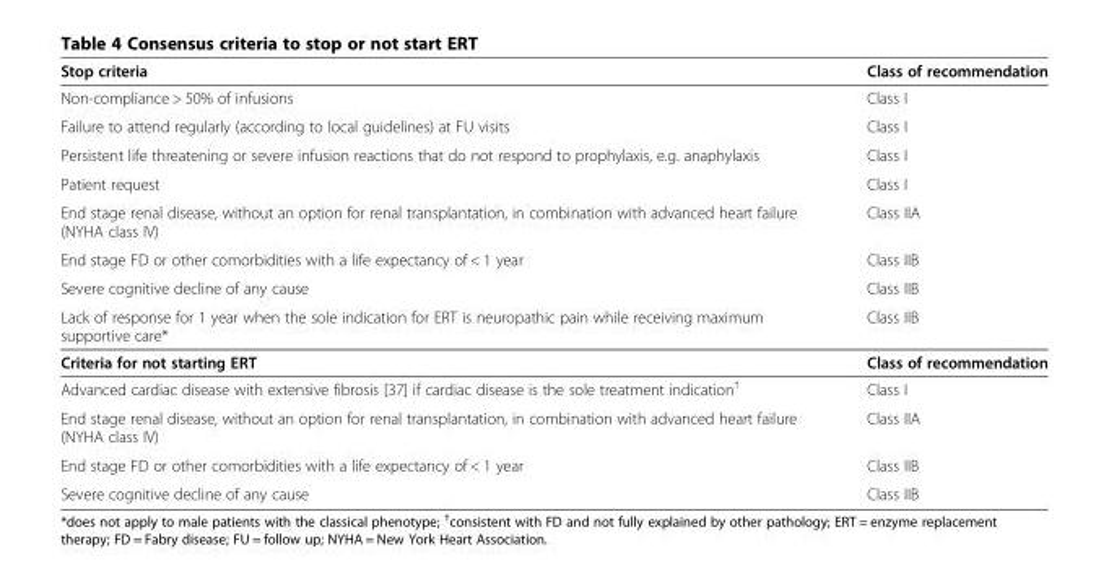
<table><thead><tr><td>Stop criteria</td><td>Class of recommendation</td></tr></thead><tbody><tr><td>Non-compliance &gt; 50% of infusions</td><td>Class I</td></tr><tr><td>Failure to attend regularly (according to local guidelines) at FU visits</td><td>Class I</td></tr><tr><td>Persistent life threatening or severe infusion reactions that do not respond to prophylaxis, e.g. anaphylaxis</td><td>Class I</td></tr><tr><td>Patient request</td><td>Class I</td></tr><tr><td>End stage renal disease, without an option for renal transplantation, in combination with advanced heart failure (NYHA class IV)</td><td>Class IIA</td></tr><tr><td>End stage FD or other comorbidities with a life expectancy of &lt; 1 year</td><td>Class IIB</td></tr><tr><td>Severe cognitive decline of any cause</td><td>Class IIB</td></tr><tr><td>Lack of response for 1 year when the sole indication for ERT is neuropathic pain while receiving maximum supportive care*</td><td>Class IIB</td></tr><tr><td>Criteria for not starting ERT</td><td>Class of recommendation</td></tr><tr><td>Advanced cardiac disease with extensive fibrosis [37] if cardiac disease is the sole treatment indication<sup>†</sup></td><td>Class I</td></tr><tr><td>End stage renal disease, without an option for renal transplantation, in combination with advanced heart failure (NYHA class IV)</td><td>Class IIA</td></tr><tr><td>End stage FD or other comorbidities with a life expectancy of &lt; 1 year</td><td>Class IIB</td></tr><tr><td>Severe cognitive decline of any cause</td><td>Class IIB</td></tr></tbody></table>